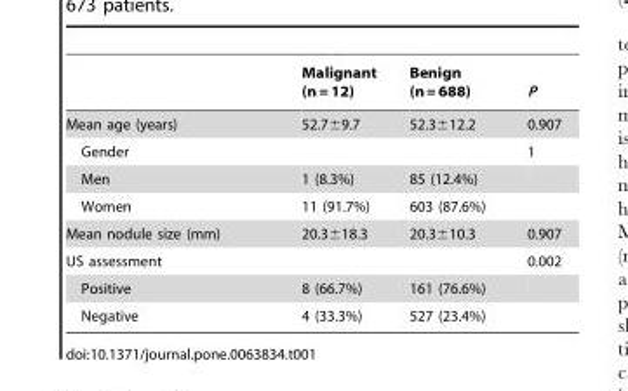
<table><thead><tr><td></td><td>Malignant (n = 12)</td><td>Benign (n = 688)</td><td>P</td></tr></thead><tbody><tr><td>Mean age (years)</td><td>52.7±9.7</td><td>52.3±12.2</td><td>0.907</td></tr><tr><td>Gender</td><td></td><td></td><td>1</td></tr><tr><td>Men</td><td>1 (8.3%)</td><td>85 (12.4%)</td><td></td></tr><tr><td>Women</td><td>11 (91.7%)</td><td>603 (87.6%)</td><td></td></tr><tr><td>Mean nodule size (mm)</td><td>20.3±18.3</td><td>20.3±10.3</td><td>0.907</td></tr><tr><td>US assessment</td><td></td><td></td><td>0.002</td></tr><tr><td>Positive</td><td>8 (66.7%)</td><td>161 (76.6%)</td><td></td></tr><tr><td>Negative</td><td>4 (33.3%)</td><td>527 (23.4%)</td><td></td></tr></tbody></table>